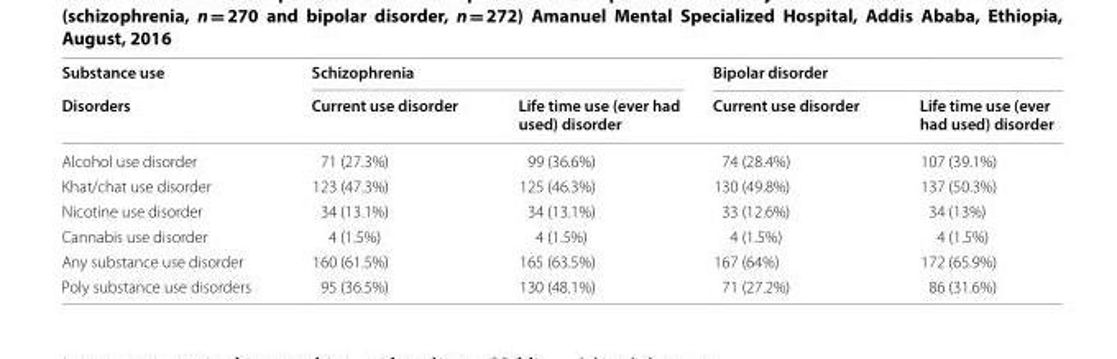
<table><thead><tr><td rowspan="2">Substance use Disorders</td><td colspan="2">Schizophrenia</td><td colspan="2">Bipolar disorder</td></tr><tr><td>Current use disorder</td><td>Life time use (ever had used) disorder</td><td>Current use disorder</td><td>Life time use (ever had used) disorder</td></tr></thead><tbody><tr><td>Alcohol use disorder</td><td>71 (27.3%)</td><td>99 (36.6%)</td><td>74 (28.4%)</td><td>107 (39.1%)</td></tr><tr><td>Khat/chat use disorder</td><td>123 (47.3%)</td><td>125 (46.3%)</td><td>130 (49.8%)</td><td>137 (50.3%)</td></tr><tr><td>Nicotine use disorder</td><td>34 (13.1%)</td><td>34 (13.1%)</td><td>33 (12.6%)</td><td>34 (13%)</td></tr><tr><td>Cannabis use disorder</td><td>4 (1.5%)</td><td>4 (1.5%)</td><td>4 (1.5%)</td><td>4 (1.5%)</td></tr><tr><td>Any substance use disorder</td><td>160 (61.5%)</td><td>165 (63.5%)</td><td>167 (64%)</td><td>172 (65.9%)</td></tr><tr><td>Poly substance use disorders</td><td>95 (36.5%)</td><td>130 (48.1%)</td><td>71 (27.2%)</td><td>86 (31.6%)</td></tr></tbody></table>